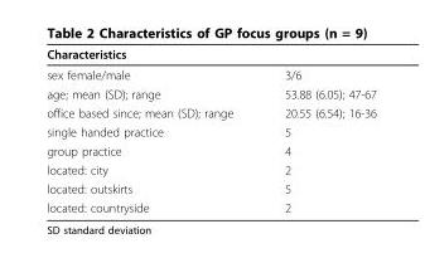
<table><thead><tr><td>Characteristics</td><td></td></tr></thead><tbody><tr><td>sex female/male</td><td>3/6</td></tr><tr><td>age; mean (SD); range</td><td>53.88 (6.05); 47-67</td></tr><tr><td>office based since; mean (SD); range</td><td>20.55 (6.54); 16-36</td></tr><tr><td>single handed practice</td><td>5</td></tr><tr><td>group practice</td><td>4</td></tr><tr><td>located: city</td><td>2</td></tr><tr><td>located: outskirts</td><td>5</td></tr><tr><td>located: countryside</td><td>2</td></tr></tbody></table>